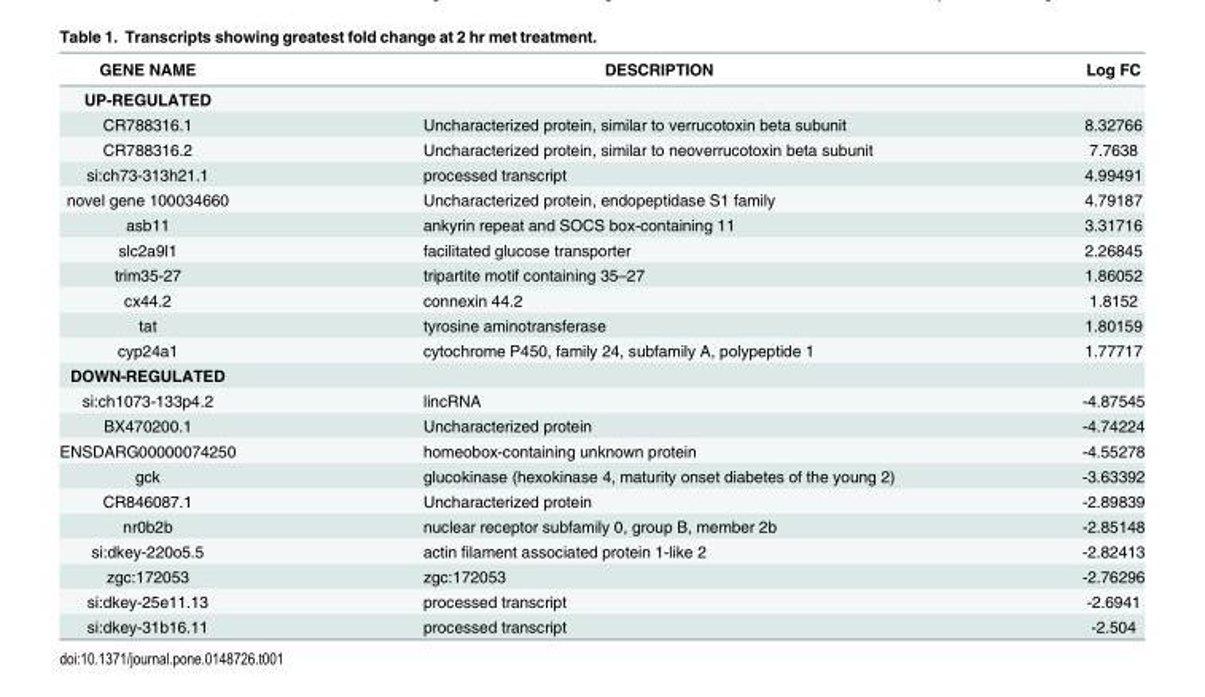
<table><thead><tr><td>GENE NAME</td><td>DESCRIPTION</td><td>Log FC</td></tr></thead><tbody><tr><td colspan="3">UP-REGULATED</td></tr><tr><td>CR788316.1</td><td>Uncharacterized protein, similar to verrucotoxin beta subunit</td><td>8.32766</td></tr><tr><td>CR788316.2</td><td>Uncharacterized protein, similar to neoverrucotoxin beta subunit</td><td>7.7638</td></tr><tr><td>si:ch73-313h21.1</td><td>processed transcript</td><td>4.99491</td></tr><tr><td>novel gene 100034660</td><td>Uncharacterized protein, endopeptidase S1 family</td><td>4.79187</td></tr><tr><td>asb11</td><td>ankyrin repeat and SOCS box-containing 11</td><td>3.31716</td></tr><tr><td>slc2a9l1</td><td>facilitated glucose transporter</td><td>2.26845</td></tr><tr><td>trim35-27</td><td>tripartite motif containing 35–27</td><td>1.86052</td></tr><tr><td>cx44.2</td><td>connexin 44.2</td><td>1.8152</td></tr><tr><td>tat</td><td>tyrosine aminotransferase</td><td>1.80159</td></tr><tr><td>cyp24a1</td><td>cytochrome P450, family 24, subfamily A, polypeptide 1</td><td>1.77717</td></tr><tr><td colspan="3">DOWN-REGULATED</td></tr><tr><td>si:ch1073-133p4.2</td><td>lincRNA</td><td>-4.87545</td></tr><tr><td>BX470200.1</td><td>Uncharacterized protein</td><td>-4.74224</td></tr><tr><td>ENSDARG00000074250</td><td>homeobox-containing unknown protein</td><td>-4.55278</td></tr><tr><td>gck</td><td>glucokinase (hexokinase 4, maturity onset diabetes of the young 2)</td><td>-3.63392</td></tr><tr><td>CR846087.1</td><td>Uncharacterized protein</td><td>-2.89839</td></tr><tr><td>nr0b2b</td><td>nuclear receptor subfamily 0, group B, member 2b</td><td>-2.85148</td></tr><tr><td>si:dkey-220o5.5</td><td>actin filament associated protein 1-like 2</td><td>-2.82413</td></tr><tr><td>zgc:172053</td><td>zgc:172053</td><td>-2.76296</td></tr><tr><td>si:dkey-25e11.13</td><td>processed transcript</td><td>-2.6941</td></tr><tr><td>si:dkey-31b16.11</td><td>processed transcript</td><td>-2.504</td></tr></tbody></table>